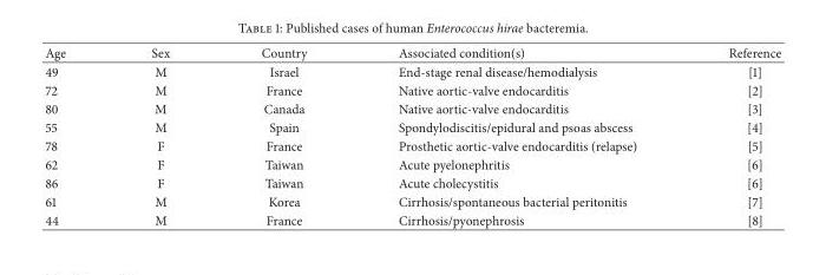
<table><thead><tr><td>Age</td><td>Sex</td><td>Country</td><td>Associated condition(s)</td><td>Reference</td></tr></thead><tbody><tr><td>49</td><td>M</td><td>Israel</td><td>End-stage renal disease/hemodialysis</td><td>[1]</td></tr><tr><td>72</td><td>M</td><td>France</td><td>Native aortic-valve endocarditis</td><td>[2]</td></tr><tr><td>80</td><td>M</td><td>Canada</td><td>Native aortic-valve endocarditis</td><td>[3]</td></tr><tr><td>55</td><td>M</td><td>Spain</td><td>Spondylodiscitis/epidural and psoas abscess</td><td>[4]</td></tr><tr><td>78</td><td>F</td><td>France</td><td>Prosthetic aortic-valve endocarditis (relapse)</td><td>[5]</td></tr><tr><td>62</td><td>F</td><td>Taiwan</td><td>Acute pyelonephritis</td><td>[6]</td></tr><tr><td>86</td><td>F</td><td>Taiwan</td><td>Acute cholecystitis</td><td>[6]</td></tr><tr><td>61</td><td>M</td><td>Korea</td><td>Cirrhosis/spontaneous bacterial peritonitis</td><td>[7]</td></tr><tr><td>44</td><td>M</td><td>France</td><td>Cirrhosis/pyonephrosis</td><td>[8]</td></tr></tbody></table>